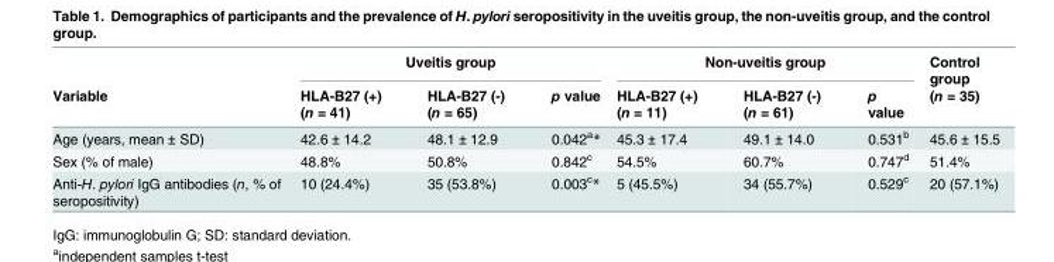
<table><thead><tr><td rowspan="2">Variable</td><td colspan="3">Uveitis group</td><td colspan="3">Non-uveitis group</td><td rowspan="2">Control group (n = 35)</td></tr><tr><td>HLA-B27 (+) (n = 41)</td><td>HLA-B27 (-) (n = 65)</td><td>p value</td><td>HLA-B27 (+) (n = 11)</td><td>HLA-B27 (-) (n = 61)</td><td>p value</td></tr></thead><tbody><tr><td>Age (years, mean ± SD)</td><td>42.6 ± 14.2</td><td>48.1 ± 12.9</td><td>0.042<sup>a</sup>*</td><td>45.3 ± 17.4</td><td>49.1 ± 14.0</td><td>0.531<sup>b</sup></td><td>45.6 ± 15.5</td></tr><tr><td>Sex (% of male)</td><td>48.8%</td><td>50.8%</td><td>0.842<sup>c</sup></td><td>54.5%</td><td>60.7%</td><td>0.747<sup>d</sup></td><td>51.4%</td></tr><tr><td>Anti-H. pylori IgG antibodies (n, % of seropositivity)</td><td>10 (24.4%)</td><td>35 (53.8%)</td><td>0.003<sup>c</sup>*</td><td>5 (45.5%)</td><td>34 (55.7%)</td><td>0.529<sup>c</sup></td><td>20 (57.1%)</td></tr></tbody></table>